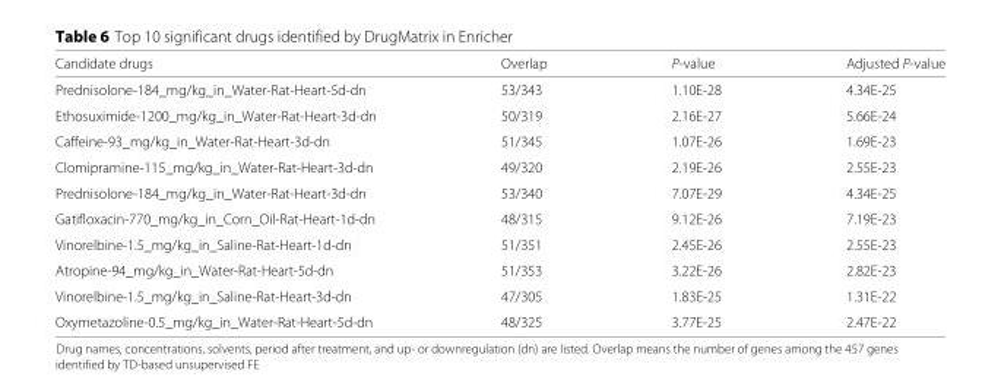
<table><thead><tr><td>Candidate drugs</td><td>Overlap</td><td>P-value</td><td>Adjusted P-value</td></tr></thead><tbody><tr><td>Prednisolone-184_mg/kg_in_Water-Rat-Heart-5d-dn</td><td>53/343</td><td>1.10E-28</td><td>4.34E-25</td></tr><tr><td>Ethosuximide-1200_mg/kg_in_Water-Rat-Heart-3d-dn</td><td>50/319</td><td>2.16E-27</td><td>5.66E-24</td></tr><tr><td>Caffeine-93_mg/kg_in_Water-Rat-Heart-3d-dn</td><td>51/345</td><td>1.07E-26</td><td>1.69E-23</td></tr><tr><td>Clomipramine-115_mg/kg_in_Water-Rat-Heart-3d-dn</td><td>49/320</td><td>2.19E-26</td><td>2.55E-23</td></tr><tr><td>Prednisolone-184_mg/kg_in_Water-Rat-Heart-3d-dn</td><td>53/340</td><td>7.07E-29</td><td>4.34E-25</td></tr><tr><td>Gatifloxacin-770_mg/kg_in_Corn_Oil-Rat-Heart-1d-dn</td><td>48/315</td><td>9.12E-26</td><td>7.19E-23</td></tr><tr><td>Vinorelbine-1.5_mg/kg_in_Saline-Rat-Heart-1d-dn</td><td>51/351</td><td>2.45E-26</td><td>2.55E-23</td></tr><tr><td>Atropine-94_mg/kg_in_Water-Rat-Heart-5d-dn</td><td>51/353</td><td>3.22E-26</td><td>2.82E-23</td></tr><tr><td>Vinorelbine-1.5_mg/kg_in_Saline-Rat-Heart-3d-dn</td><td>47/305</td><td>1.83E-25</td><td>1.31E-22</td></tr><tr><td>Oxymetazoline-0.5_mg/kg_in_Water-Rat-Heart-5d-dn</td><td>48/325</td><td>3.77E-25</td><td>2.47E-22</td></tr></tbody></table>